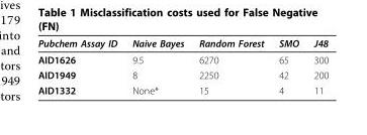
<table><thead><tr><td>Pubchem Assay ID</td><td>Naive Bayes</td><td>Random Forest</td><td>SMO</td><td>J48</td></tr></thead><tbody><tr><td>AID1626</td><td>9.5</td><td>6270</td><td>65</td><td>300</td></tr><tr><td>AID1949</td><td>8</td><td>2250</td><td>42</td><td>200</td></tr><tr><td>AID1332</td><td>None*</td><td>15</td><td>4</td><td>11</td></tr></tbody></table>